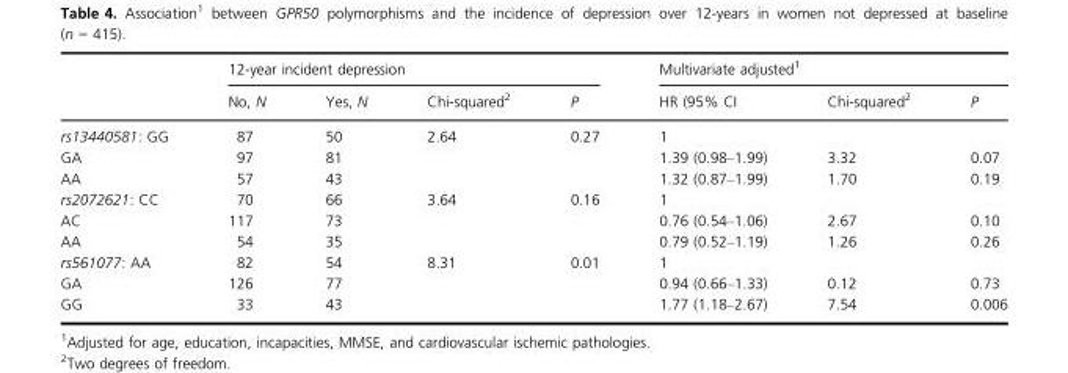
<table><thead><tr><td rowspan="2"></td><td colspan="4">12-year incident depression</td><td colspan="3">Multivariate adjusted<sup>1</sup></td></tr><tr><td>No, N</td><td>Yes, N</td><td>Chi-squared<sup>2</sup></td><td>P</td><td>HR (95% CI</td><td>Chi-squared<sup>2</sup></td><td>P</td></tr></thead><tbody><tr><td>rs13440581: GG</td><td>87</td><td>50</td><td>2.64</td><td>0.27</td><td>1</td><td></td><td></td></tr><tr><td>GA</td><td>97</td><td>81</td><td></td><td></td><td>1.39 (0.98–1.99)</td><td>3.32</td><td>0.07</td></tr><tr><td>AA</td><td>57</td><td>43</td><td></td><td></td><td>1.32 (0.87–1.99)</td><td>1.70</td><td>0.19</td></tr><tr><td>rs2072621: CC</td><td>70</td><td>66</td><td>3.64</td><td>0.16</td><td>1</td><td></td><td></td></tr><tr><td>AC</td><td>117</td><td>73</td><td></td><td></td><td>0.76 (0.54–1.06)</td><td>2.67</td><td>0.10</td></tr><tr><td>AA</td><td>54</td><td>35</td><td></td><td></td><td>0.79 (0.52–1.19)</td><td>1.26</td><td>0.26</td></tr><tr><td>rs561077: AA</td><td>82</td><td>54</td><td>8.31</td><td>0.01</td><td>1</td><td></td><td></td></tr><tr><td>GA</td><td>126</td><td>77</td><td></td><td></td><td>0.94 (0.66–1.33)</td><td>0.12</td><td>0.73</td></tr><tr><td>GG</td><td>33</td><td>43</td><td></td><td></td><td>1.77 (1.18–2.67)</td><td>7.54</td><td>0.006</td></tr></tbody></table>